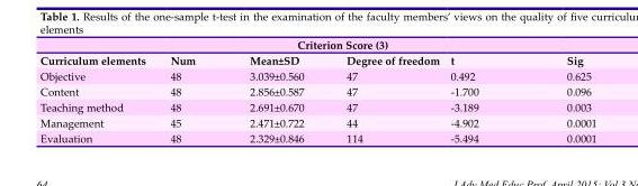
<table><thead><tr><td colspan="6">Criterion Score (3)</td></tr><tr><td>Curriculum elements</td><td>Num</td><td>Mean±SD</td><td>Degree of freedom</td><td>t</td><td>Sig</td></tr></thead><tbody><tr><td>Objective</td><td>48</td><td>3.039±0.560</td><td>47</td><td>0.492</td><td>0.625</td></tr><tr><td>Content</td><td>48</td><td>2.856±0.587</td><td>47</td><td>-1.700</td><td>0.096</td></tr><tr><td>Teaching method</td><td>48</td><td>2.691±0.670</td><td>47</td><td>-3.189</td><td>0.003</td></tr><tr><td>Management</td><td>45</td><td>2.471±0.722</td><td>44</td><td>-4.902</td><td>0.0001</td></tr><tr><td>Evaluation</td><td>48</td><td>2.329±0.846</td><td>114</td><td>-5.494</td><td>0.0001</td></tr></tbody></table>